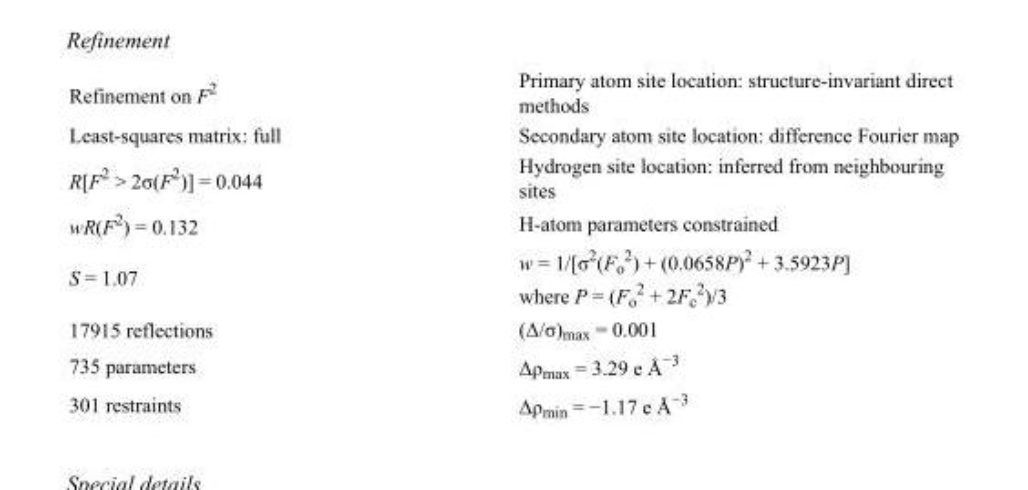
<table><tbody><tr><td>Refinement on F<sup>2</sup></td><td>Primary atom site location: structure-invariant direct methods</td></tr><tr><td>Least-squares matrix: full</td><td>Secondary atom site location: difference Fourier map</td></tr><tr><td>R[F<sup>2</sup> &gt; 2σ(F<sup>2</sup>)] = 0.044</td><td>Hydrogen site location: inferred from neighbouring sites</td></tr><tr><td>wR(F<sup>2</sup>) = 0.132</td><td>H-atom parameters constrained</td></tr><tr><td>S = 1.07</td><td>w = 1/[σ<sup>2</sup>(F<sub>o</sub> <sup>2</sup>) + (0.0658P)<sup>2</sup> + 3.5923P] where P = (F<sub>o</sub> <sup>2</sup> + 2F<sub>c</sub> <sup>2</sup>)/3</td></tr><tr><td>17915 reflections</td><td>(Δ/σ)<sub>max</sub> = 0.001</td></tr><tr><td>735 parameters</td><td>Δρ<sub>max</sub> = 3.29 e Å<sup>−3</sup></td></tr><tr><td>301 restraints</td><td>Δρ<sub>min</sub> = −1.17 e Å<sup>−3</sup></td></tr></tbody></table>